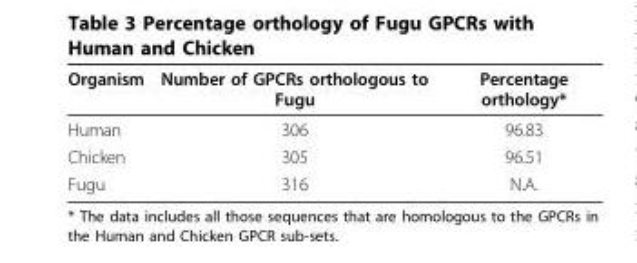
<table><thead><tr><td>Organism</td><td>Number of GPCRs orthologous to Fugu</td><td>Percentage orthology*</td></tr></thead><tbody><tr><td>Human</td><td>306</td><td>96.83</td></tr><tr><td>Chicken</td><td>305</td><td>96.51</td></tr><tr><td>Fugu</td><td>316</td><td>N.A.</td></tr></tbody></table>